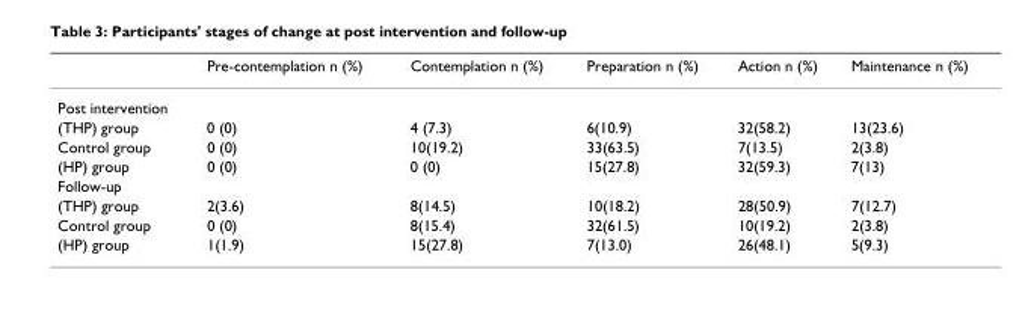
<table><thead><tr><td></td><td>Pre-contemplation n (%)</td><td>Contemplation n (%)</td><td>Preparation n (%)</td><td>Action n (%)</td><td>Maintenance n (%)</td></tr></thead><tbody><tr><td colspan="6">Post intervention</td></tr><tr><td>(THP) group</td><td>0 (0)</td><td>4 (7.3)</td><td>6(10.9)</td><td>32(58.2)</td><td>13(23.6)</td></tr><tr><td>Control group</td><td>0 (0)</td><td>10(19.2)</td><td>33(63.5)</td><td>7(13.5)</td><td>2(3.8)</td></tr><tr><td>(HP) group</td><td>0 (0)</td><td>0 (0)</td><td>15(27.8)</td><td>32(59.3)</td><td>7(13)</td></tr><tr><td colspan="6">Follow-up</td></tr><tr><td>(THP) group</td><td>2(3.6)</td><td>8(14.5)</td><td>10(18.2)</td><td>28(50.9)</td><td>7(12.7)</td></tr><tr><td>Control group</td><td>0 (0)</td><td>8(15.4)</td><td>32(61.5)</td><td>10(19.2)</td><td>2(3.8)</td></tr><tr><td>(HP) group</td><td>1(1.9)</td><td>15(27.8)</td><td>7(13.0)</td><td>26(48.1)</td><td>5(9.3)</td></tr></tbody></table>